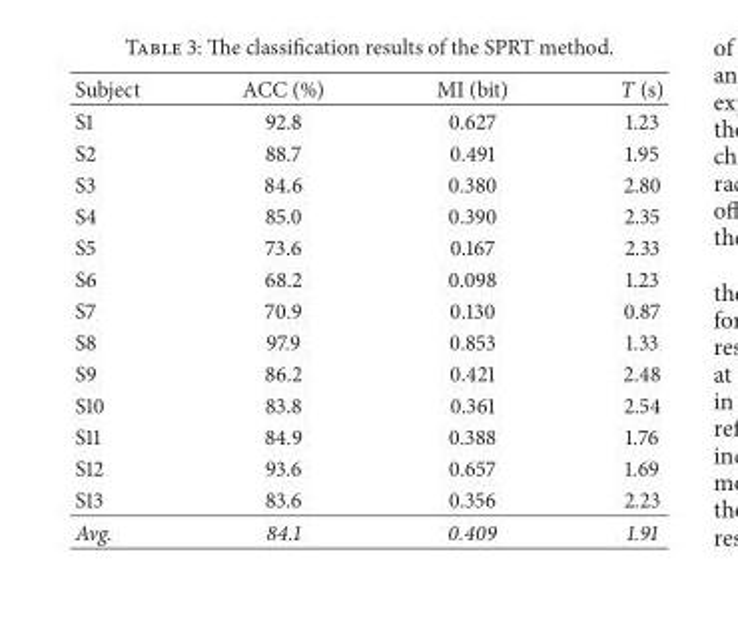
<table><thead><tr><td>Subject</td><td>ACC (%)</td><td>MI (bit)</td><td>T (s)</td></tr></thead><tbody><tr><td>S1</td><td>92.8</td><td>0.627</td><td>1.23</td></tr><tr><td>S2</td><td>88.7</td><td>0.491</td><td>1.95</td></tr><tr><td>S3</td><td>84.6</td><td>0.380</td><td>2.80</td></tr><tr><td>S4</td><td>85.0</td><td>0.390</td><td>2.35</td></tr><tr><td>S5</td><td>73.6</td><td>0.167</td><td>2.33</td></tr><tr><td>S6</td><td>68.2</td><td>0.098</td><td>1.23</td></tr><tr><td>S7</td><td>70.9</td><td>0.130</td><td>0.87</td></tr><tr><td>S8</td><td>97.9</td><td>0.853</td><td>1.33</td></tr><tr><td>S9</td><td>86.2</td><td>0.421</td><td>2.48</td></tr><tr><td>S10</td><td>83.8</td><td>0.361</td><td>2.54</td></tr><tr><td>S11</td><td>84.9</td><td>0.388</td><td>1.76</td></tr><tr><td>S12</td><td>93.6</td><td>0.657</td><td>1.69</td></tr><tr><td>S13</td><td>83.6</td><td>0.356</td><td>2.23</td></tr><tr><td>Avg.</td><td>84.1</td><td>0.409</td><td>1.91</td></tr></tbody></table>